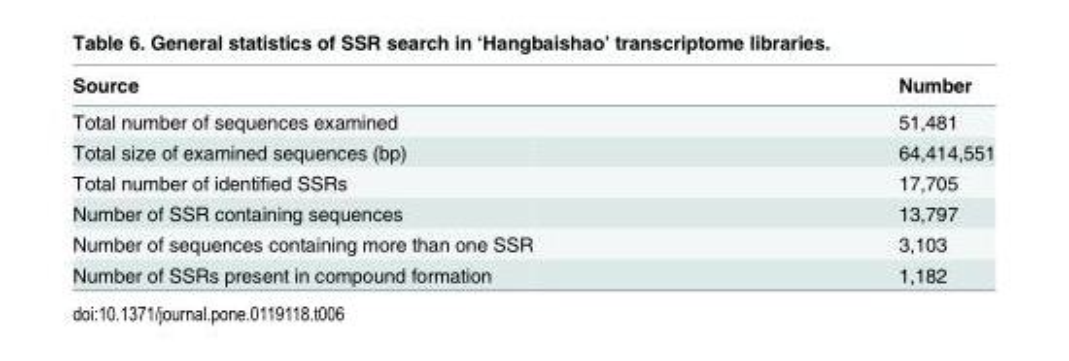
<table><thead><tr><td>Source</td><td>Number</td></tr></thead><tbody><tr><td>Total number of sequences examined</td><td>51,481</td></tr><tr><td>Total size of examined sequences (bp)</td><td>64,414,551</td></tr><tr><td>Total number of identified SSRs</td><td>17,705</td></tr><tr><td>Number of SSR containing sequences</td><td>13,797</td></tr><tr><td>Number of sequences containing more than one SSR</td><td>3,103</td></tr><tr><td>Number of SSRs present in compound formation</td><td>1,182</td></tr></tbody></table>